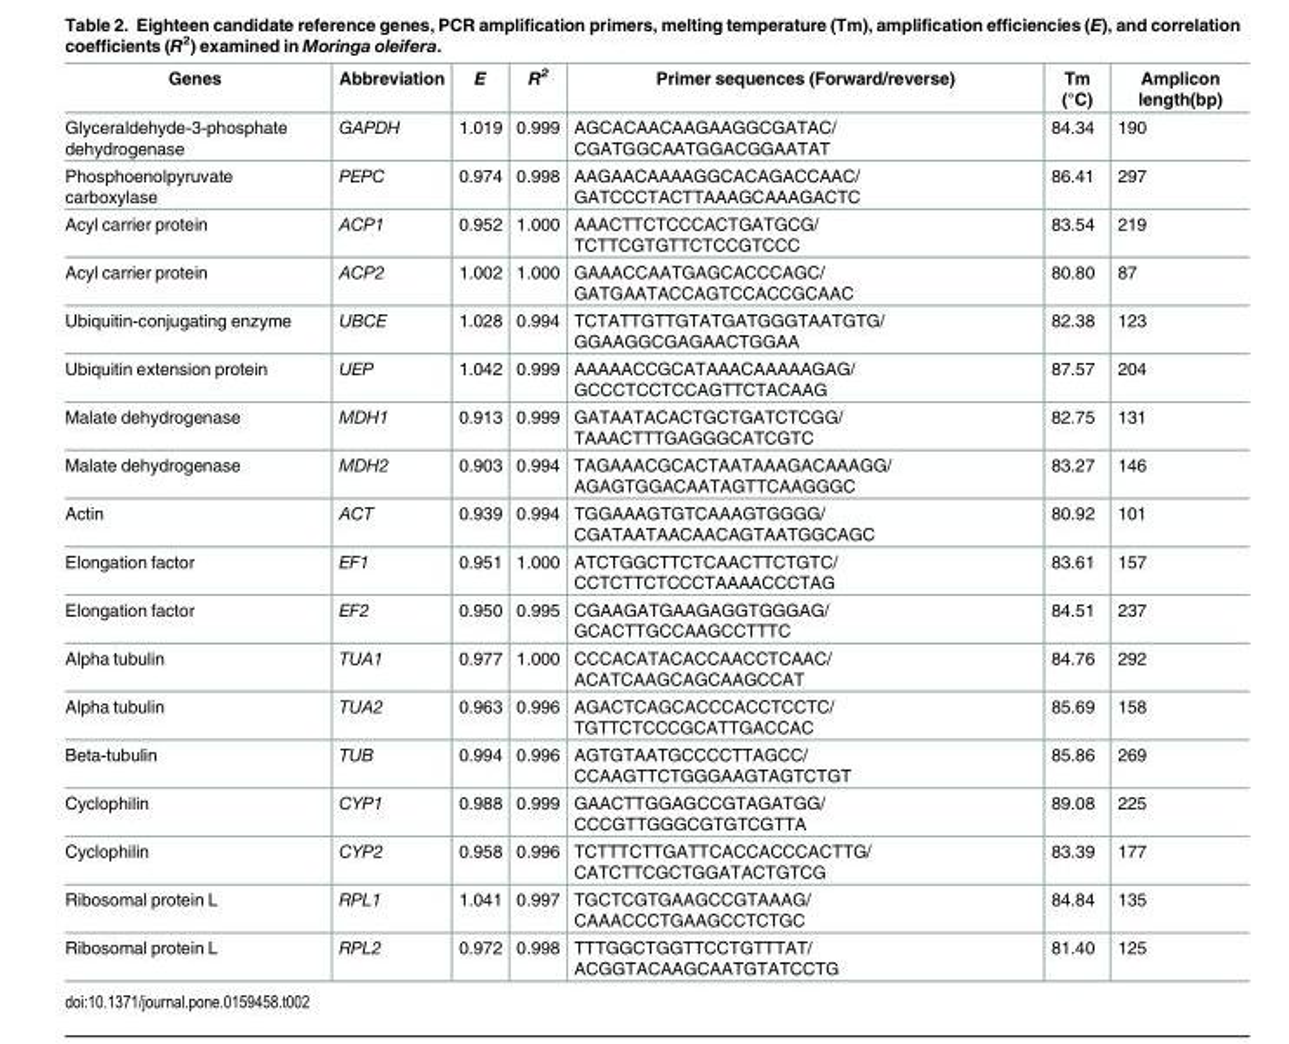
<table><thead><tr><td>Genes</td><td>Abbreviation</td><td>E</td><td>R<sup>2</sup></td><td>Primer sequences (Forward/reverse)</td><td>Tm (°C)</td><td>Amplicon length(bp)</td></tr></thead><tbody><tr><td>Glyceraldehyde-3-phosphate dehydrogenase</td><td>GAPDH</td><td>1.019</td><td>0.999</td><td>AGCACAACAAGAAGGCGATAC/ CGATGGCAATGGACGGAATAT</td><td>84.34</td><td>190</td></tr><tr><td>Phosphoenolpyruvate carboxylase</td><td>PEPC</td><td>0.974</td><td>0.998</td><td>AAGAACAAAAGGCACAGACCAAC/ GATCCCTACTTAAAGCAAAGACTC</td><td>86.41</td><td>297</td></tr><tr><td>Acyl carrier protein</td><td>ACP1</td><td>0.952</td><td>1.000</td><td>AAACTTCTCCCACTGATGCG/ TCTTCGTGTTCTCCGTCCC</td><td>83.54</td><td>219</td></tr><tr><td>Acyl carrier protein</td><td>ACP2</td><td>1.002</td><td>1.000</td><td>GAAACCAATGAGCACCCAGC/ GATGAATACCAGTCCACCGCAAC</td><td>80.80</td><td>87</td></tr><tr><td>Ubiquitin-conjugating enzyme</td><td>UBCE</td><td>1.028</td><td>0.994</td><td>TCTATTGTTGTATGATGGGTAATGTG/ GGAAGGCGAGAACTGGAA</td><td>82.38</td><td>123</td></tr><tr><td>Ubiquitin extension protein</td><td>UEP</td><td>1.042</td><td>0.999</td><td>AAAAACCGCATAAACAAAAAGAG/ GCCCTCCTCCAGTTCTACAAG</td><td>87.57</td><td>204</td></tr><tr><td>Malate dehydrogenase</td><td>MDH1</td><td>0.913</td><td>0.999</td><td>GATAATACACTGCTGATCTCGG/ TAAACTTTGAGGGCATCGTC</td><td>82.75</td><td>131</td></tr><tr><td>Malate dehydrogenase</td><td>MDH2</td><td>0.903</td><td>0.994</td><td>TAGAAACGCACTAATAAAGACAAAGG/ AGAGTGGACAATAGTTCAAGGGC</td><td>83.27</td><td>146</td></tr><tr><td>Actin</td><td>ACT</td><td>0.939</td><td>0.994</td><td>TGGAAAGTGTCAAAGTGGGG/ CGATAATAACAACAGTAATGGCAGC</td><td>80.92</td><td>101</td></tr><tr><td>Elongation factor</td><td>EF1</td><td>0.951</td><td>1.000</td><td>ATCTGGCTTCTCAACTTCTGTC/ CCTCTTCTCCCTAAAACCCTAG</td><td>83.61</td><td>157</td></tr><tr><td>Elongation factor</td><td>EF2</td><td>0.950</td><td>0.995</td><td>CGAAGATGAAGAGGTGGGAG/ GCACTTGCCAAGCCTTTC</td><td>84.51</td><td>237</td></tr><tr><td>Alpha tubulin</td><td>TUA1</td><td>0.977</td><td>1.000</td><td>CCCACATACACCAACCTCAAC/ ACATCAAGCAGCAAGCCAT</td><td>84.76</td><td>292</td></tr><tr><td>Alpha tubulin</td><td>TUA2</td><td>0.963</td><td>0.996</td><td>AGACTCAGCACCCACCTCCTC/ TGTTCTCCCGCATTGACCAC</td><td>85.69</td><td>158</td></tr><tr><td>Beta-tubulin</td><td>TUB</td><td>0.994</td><td>0.996</td><td>AGTGTAATGCCCCTTAGCC/ CCAAGTTCTGGGAAGTAGTCTGT</td><td>85.86</td><td>269</td></tr><tr><td>Cyclophilin</td><td>CYP1</td><td>0.988</td><td>0.999</td><td>GAACTTGGAGCCGTAGATGG/ CCCGTTGGGCGTGTCGTTA</td><td>89.08</td><td>225</td></tr><tr><td>Cyclophilin</td><td>CYP2</td><td>0.958</td><td>0.996</td><td>TCTTTCTTGATTCACCACCCACTTG/ CATCTTCGCTGGATACTGTCG</td><td>83.39</td><td>177</td></tr><tr><td>Ribosomal protein L</td><td>RPL1</td><td>1.041</td><td>0.997</td><td>TGCTCGTGAAGCCGTAAAG/ CAAACCCTGAAGCCTCTGC</td><td>84.84</td><td>135</td></tr><tr><td>Ribosomal protein L</td><td>RPL2</td><td>0.972</td><td>0.998</td><td>TTTGGCTGGTTCCTGTTTAT/ ACGGTACAAGCAATGTATCCTG</td><td>81.40</td><td>125</td></tr></tbody></table>